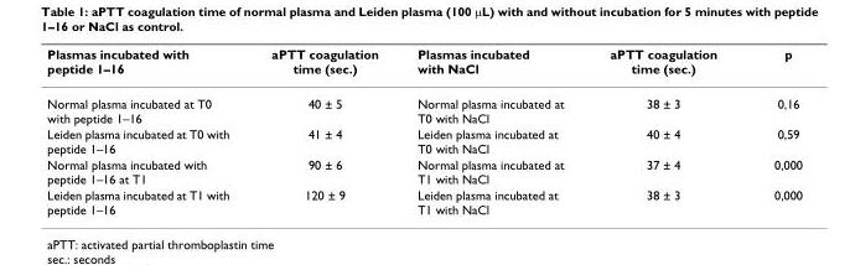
<table><thead><tr><td>Plasmas incubated with peptide 1–16</td><td>aPTT coagulation time (sec.)</td><td>Plasmas incubated with NaCl</td><td>aPTT coagulation time (sec.)</td><td>p</td></tr></thead><tbody><tr><td>Normal plasma incubated at T0 with peptide 1–16</td><td>40 ± 5</td><td>Normal plasma incubated at T0 with NaCl</td><td>38 ± 3</td><td>0,16</td></tr><tr><td>Leiden plasma incubated at T0 with peptide 1–16</td><td>41 ± 4</td><td>Leiden plasma incubated at T0 with NaCl</td><td>40 ± 4</td><td>0,59</td></tr><tr><td>Normal plasma incubated with peptide 1–16 at T1</td><td>90 ± 6</td><td>Normal plasma incubated at T1 with NaCl</td><td>37 ± 4</td><td>0,000</td></tr><tr><td>Leiden plasma incubated at T1 with peptide 1–16</td><td>120 ± 9</td><td>Leiden plasma incubated at T1 with NaCl</td><td>38 ± 3</td><td>0,000</td></tr></tbody></table>